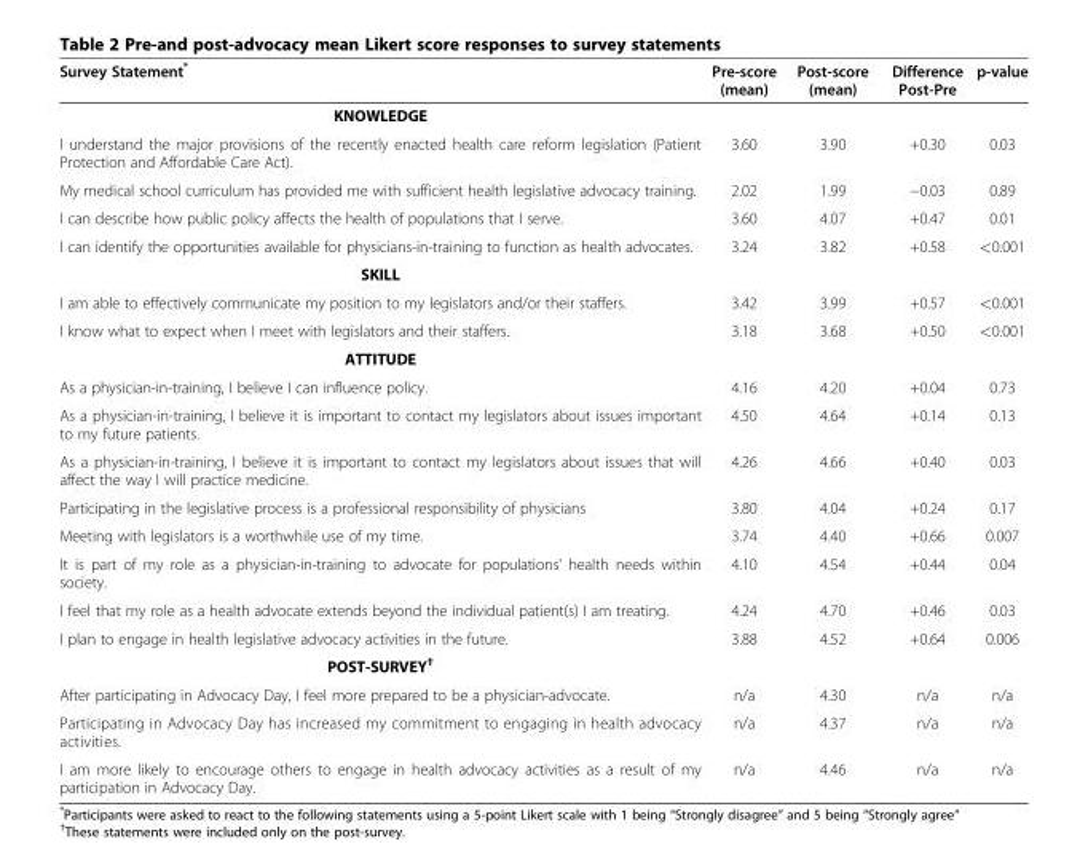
<table><thead><tr><td>Survey Statement*</td><td>Pre-score (mean)</td><td>Post-score (mean)</td><td>Difference Post-Pre</td><td>p-value</td></tr></thead><tbody><tr><td colspan="5">KNOWLEDGE</td></tr><tr><td>I understand the major provisions of the recently enacted health care reform legislation (Patient Protection and Affordable Care Act).</td><td>3.60</td><td>3.90</td><td>+0.30</td><td>0.03</td></tr><tr><td>My medical school curriculum has provided me with sufficient health legislative advocacy training.</td><td>2.02</td><td>1.99</td><td>−0.03</td><td>0.89</td></tr><tr><td>I can describe how public policy affects the health of populations that I serve.</td><td>3.60</td><td>4.07</td><td>+0.47</td><td>0.01</td></tr><tr><td>I can identify the opportunities available for physicians-in-training to function as health advocates.</td><td>3.24</td><td>3.82</td><td>+0.58</td><td>&lt;0.001</td></tr><tr><td colspan="5">SKILL</td></tr><tr><td>I am able to effectively communicate my position to my legislators and/or their staffers.</td><td>3.42</td><td>3.99</td><td>+0.57</td><td>&lt;0.001</td></tr><tr><td>I know what to expect when I meet with legislators and their staffers.</td><td>3.18</td><td>3.68</td><td>+0.50</td><td>&lt;0.001</td></tr><tr><td colspan="5">ATTITUDE</td></tr><tr><td>As a physician-in-training, I believe I can influence policy.</td><td>4.16</td><td>4.20</td><td>+0.04</td><td>0.73</td></tr><tr><td>As a physician-in-training, I believe it is important to contact my legislators about issues important to my future patients.</td><td>4.50</td><td>4.64</td><td>+0.14</td><td>0.13</td></tr><tr><td>As a physician-in-training, I believe it is important to contact my legislators about issues that will affect the way I will practice medicine.</td><td>4.26</td><td>4.66</td><td>+0.40</td><td>0.03</td></tr><tr><td>Participating in the legislative process is a professional responsibility of physicians</td><td>3.80</td><td>4.04</td><td>+0.24</td><td>0.17</td></tr><tr><td>Meeting with legislators is a worthwhile use of my time.</td><td>3.74</td><td>4.40</td><td>+0.66</td><td>0.007</td></tr><tr><td>It is part of my role as a physician-in-training to advocate for populations&#x27; health needs within society.</td><td>4.10</td><td>4.54</td><td>+0.44</td><td>0.04</td></tr><tr><td>I feel that my role as a health advocate extends beyond the individual patient(s) I am treating.</td><td>4.24</td><td>4.70</td><td>+0.46</td><td>0.03</td></tr><tr><td>I plan to engage in health legislative advocacy activities in the future.</td><td>3.88</td><td>4.52</td><td>+0.64</td><td>0.006</td></tr><tr><td colspan="5">POST-SURVEY<sup>†</sup></td></tr><tr><td>After participating in Advocacy Day, I feel more prepared to be a physician-advocate.</td><td>n/a</td><td>4.30</td><td>n/a</td><td>n/a</td></tr><tr><td>Participating in Advocacy Day has increased my commitment to engaging in health advocacy activities.</td><td>n/a</td><td>4.37</td><td>n/a</td><td>n/a</td></tr><tr><td>I am more likely to encourage others to engage in health advocacy activities as a result of my participation in Advocacy Day.</td><td>n/a</td><td>4.46</td><td>n/a</td><td>n/a</td></tr></tbody></table>